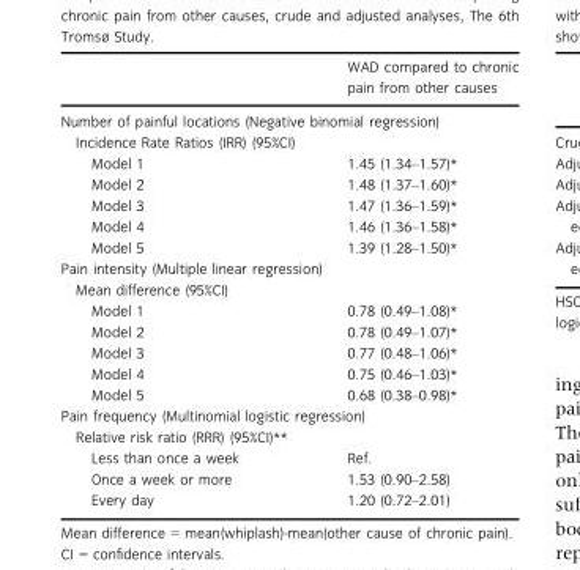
<table><thead><tr><td></td><td>WAD compared to chronic pain from other causes</td></tr></thead><tbody><tr><td colspan="2">Number of painful locations (Negative binomial regression)</td></tr><tr><td colspan="2">Incidence Rate Ratios (IRR) (95%CI)</td></tr><tr><td>Model 1</td><td>1.45 (1.34–1.57)*</td></tr><tr><td>Model 2</td><td>1.48 (1.37–1.60)*</td></tr><tr><td>Model 3</td><td>1.47 (1.36–1.59)*</td></tr><tr><td>Model 4</td><td>1.46 (1.36–1.58)*</td></tr><tr><td>Model 5</td><td>1.39 (1.28–1.50)*</td></tr><tr><td colspan="2">Pain intensity (Multiple linear regression)</td></tr><tr><td colspan="2">Mean difference (95%CI)</td></tr><tr><td>Model 1</td><td>0.78 (0.49–1.08)*</td></tr><tr><td>Model 2</td><td>0.78 (0.49–1.07)*</td></tr><tr><td>Model 3</td><td>0.77 (0.48–1.06)*</td></tr><tr><td>Model 4</td><td>0.75 (0.46–1.03)*</td></tr><tr><td>Model 5</td><td>0.68 (0.38–0.98)*</td></tr><tr><td colspan="2">Pain frequency (Multinomial logistic regression)</td></tr><tr><td colspan="2">Relative risk ratio (RRR) (95%CI)**</td></tr><tr><td>Less than once a week</td><td>Ref.</td></tr><tr><td>Once a week or more</td><td>1.53 (0.90–2.58)</td></tr><tr><td>Every day</td><td>1.20 (0.72–2.01)</td></tr></tbody></table>